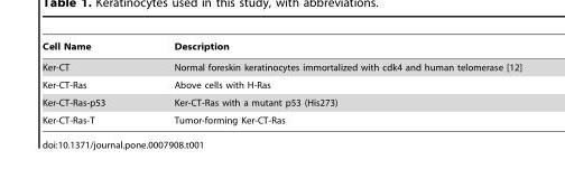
<table><thead><tr><td>Cell Name</td><td>Description</td></tr></thead><tbody><tr><td>Ker-CT</td><td>Normal foreskin keratinocytes immortalized with cdk4 and human telomerase [12]</td></tr><tr><td>Ker-CT-Ras</td><td>Above cells with H-Ras</td></tr><tr><td>Ker-CT-Ras-p53</td><td>Ker-CT-Ras with a mutant p53 (His273)</td></tr><tr><td>Ker-CT-Ras-T</td><td>Tumor-forming Ker-CT-Ras</td></tr></tbody></table>